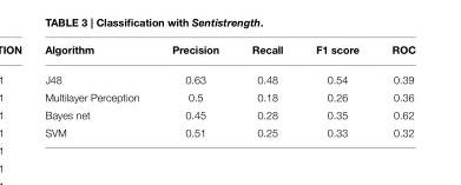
<table><thead><tr><td>Algorithm</td><td>Precision</td><td>Recall</td><td>F1 score</td><td>ROC</td></tr></thead><tbody><tr><td>J48</td><td>0.63</td><td>0.48</td><td>0.54</td><td>0.39</td></tr><tr><td>Multilayer Perception</td><td>0.5</td><td>0.18</td><td>0.26</td><td>0.36</td></tr><tr><td>Bayes net</td><td>0.45</td><td>0.28</td><td>0.35</td><td>0.62</td></tr><tr><td>SVM</td><td>0.51</td><td>0.25</td><td>0.33</td><td>0.32</td></tr></tbody></table>